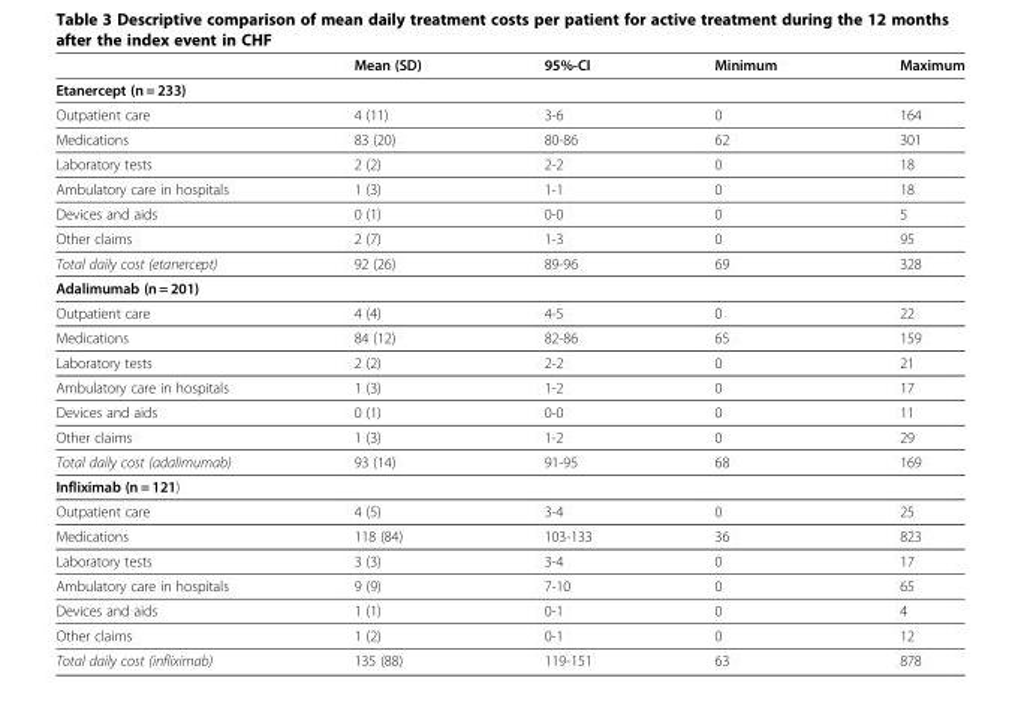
<table><thead><tr><td></td><td>Mean (SD)</td><td>95%-CI</td><td>Minimum</td><td>Maximum</td></tr></thead><tbody><tr><td colspan="5">Etanercept (n = 233)</td></tr><tr><td>Outpatient care</td><td>4 (11)</td><td>3-6</td><td>0</td><td>164</td></tr><tr><td>Medications</td><td>83 (20)</td><td>80-86</td><td>62</td><td>301</td></tr><tr><td>Laboratory tests</td><td>2 (2)</td><td>2-2</td><td>0</td><td>18</td></tr><tr><td>Ambulatory care in hospitals</td><td>1 (3)</td><td>1-1</td><td>0</td><td>18</td></tr><tr><td>Devices and aids</td><td>0 (1)</td><td>0-0</td><td>0</td><td>5</td></tr><tr><td>Other claims</td><td>2 (7)</td><td>1-3</td><td>0</td><td>95</td></tr><tr><td>Total daily cost (etanercept)</td><td>92 (26)</td><td>89-96</td><td>69</td><td>328</td></tr><tr><td colspan="5">Adalimumab (n = 201)</td></tr><tr><td>Outpatient care</td><td>4 (4)</td><td>4-5</td><td>0</td><td>22</td></tr><tr><td>Medications</td><td>84 (12)</td><td>82-86</td><td>65</td><td>159</td></tr><tr><td>Laboratory tests</td><td>2 (2)</td><td>2-2</td><td>0</td><td>21</td></tr><tr><td>Ambulatory care in hospitals</td><td>1 (3)</td><td>1-2</td><td>0</td><td>17</td></tr><tr><td>Devices and aids</td><td>0 (1)</td><td>0-0</td><td>0</td><td>11</td></tr><tr><td>Other claims</td><td>1 (3)</td><td>1-2</td><td>0</td><td>29</td></tr><tr><td>Total daily cost (adalimumab)</td><td>93 (14)</td><td>91-95</td><td>68</td><td>169</td></tr><tr><td colspan="5">Infliximab (n = 121)</td></tr><tr><td>Outpatient care</td><td>4 (5)</td><td>3-4</td><td>0</td><td>25</td></tr><tr><td>Medications</td><td>118 (84)</td><td>103-133</td><td>36</td><td>823</td></tr><tr><td>Laboratory tests</td><td>3 (3)</td><td>3-4</td><td>0</td><td>17</td></tr><tr><td>Ambulatory care in hospitals</td><td>9 (9)</td><td>7-10</td><td>0</td><td>65</td></tr><tr><td>Devices and aids</td><td>1 (1)</td><td>0-1</td><td>0</td><td>4</td></tr><tr><td>Other claims</td><td>1 (2)</td><td>0-1</td><td>0</td><td>12</td></tr><tr><td>Total daily cost (infliximab)</td><td>135 (88)</td><td>119-151</td><td>63</td><td>878</td></tr></tbody></table>